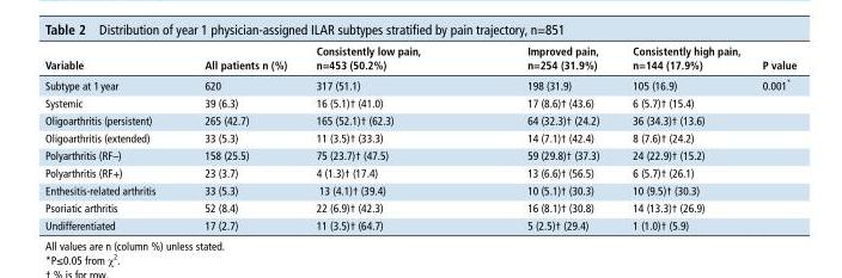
<table><thead><tr><td>Variable</td><td>All patients n (%)</td><td>Consistently low pain, n=453 (50.2%)</td><td>Improved pain, n=254 (31.9%)</td><td>Consistently high pain, n=144 (17.9%)</td><td>P value</td></tr></thead><tbody><tr><td>Subtype at 1 year</td><td>620</td><td>317 (51.1)</td><td>198 (31.9)</td><td>105 (16.9)</td><td>0.001*</td></tr><tr><td>Systemic</td><td>39 (6.3)</td><td>16 (5.1)† (41.0)</td><td>17 (8.6)† (43.6)</td><td>6 (5.7)† (15.4)</td><td></td></tr><tr><td>Oligoarthritis (persistent)</td><td>265 (42.7)</td><td>165 (52.1)† (62.3)</td><td>64 (32.3)† (24.2)</td><td>36 (34.3)† (13.6)</td><td></td></tr><tr><td>Oligoarthritis (extended)</td><td>33 (5.3)</td><td>11 (3.5)† (33.3)</td><td>14 (7.1)† (42.4)</td><td>8 (7.6)† (24.2)</td><td></td></tr><tr><td>Polyarthritis (RF–)</td><td>158 (25.5)</td><td>75 (23.7)† (47.5)</td><td>59 (29.8)† (37.3)</td><td>24 (22.9)† (15.2)</td><td></td></tr><tr><td>Polyarthritis (RF+)</td><td>23 (3.7)</td><td>4 (1.3)† (17.4)</td><td>13 (6.6)† (56.5)</td><td>6 (5.7)† (26.1)</td><td></td></tr><tr><td>Enthesitis-related arthritis</td><td>33 (5.3)</td><td>13 (4.1)† (39.4)</td><td>10 (5.1)† (30.3)</td><td>10 (9.5)† (30.3)</td><td></td></tr><tr><td>Psoriatic arthritis</td><td>52 (8.4)</td><td>22 (6.9)† (42.3)</td><td>16 (8.1)† (30.8)</td><td>14 (13.3)† (26.9)</td><td></td></tr><tr><td>Undifferentiated</td><td>17 (2.7)</td><td>11 (3.5)† (64.7)</td><td>5 (2.5)† (29.4)</td><td>1 (1.0)† (5.9)</td><td></td></tr></tbody></table>